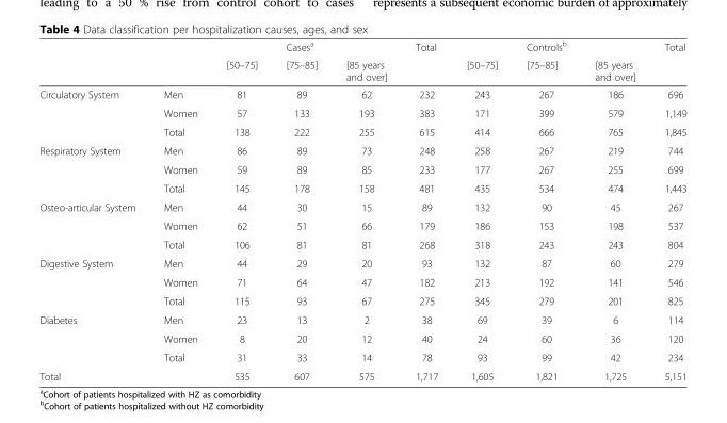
<table><thead><tr><td rowspan="2"></td><td rowspan="2"></td><td rowspan="2">[50–75]</td><td rowspan="2">Cases<sup>a</sup> [75–85]</td><td rowspan="2">[85 years and over]</td><td rowspan="2">Total</td><td rowspan="2">[50–75]</td><td rowspan="2">Controls<sup>b</sup> [75–85]</td><td rowspan="2">[85 years and over]</td><td rowspan="2">Total</td></tr><tr></tr></thead><tbody><tr><td rowspan="3">Circulatory System</td><td>Men</td><td>81</td><td>89</td><td>62</td><td>232</td><td>243</td><td>267</td><td>186</td><td>696</td></tr><tr><td>Women</td><td>57</td><td>133</td><td>193</td><td>383</td><td>171</td><td>399</td><td>579</td><td>1,149</td></tr><tr><td>Total</td><td>138</td><td>222</td><td>255</td><td>615</td><td>414</td><td>666</td><td>765</td><td>1,845</td></tr><tr><td rowspan="3">Respiratory System</td><td>Men</td><td>86</td><td>89</td><td>73</td><td>248</td><td>258</td><td>267</td><td>219</td><td>744</td></tr><tr><td>Women</td><td>59</td><td>89</td><td>85</td><td>233</td><td>177</td><td>267</td><td>255</td><td>699</td></tr><tr><td>Total</td><td>145</td><td>178</td><td>158</td><td>481</td><td>435</td><td>534</td><td>474</td><td>1,443</td></tr><tr><td rowspan="3">Osteo-articular System</td><td>Men</td><td>44</td><td>30</td><td>15</td><td>89</td><td>132</td><td>90</td><td>45</td><td>267</td></tr><tr><td>Women</td><td>62</td><td>51</td><td>66</td><td>179</td><td>186</td><td>153</td><td>198</td><td>537</td></tr><tr><td>Total</td><td>106</td><td>81</td><td>81</td><td>268</td><td>318</td><td>243</td><td>243</td><td>804</td></tr><tr><td rowspan="3">Digestive System</td><td>Men</td><td>44</td><td>29</td><td>20</td><td>93</td><td>132</td><td>87</td><td>60</td><td>279</td></tr><tr><td>Women</td><td>71</td><td>64</td><td>47</td><td>182</td><td>213</td><td>192</td><td>141</td><td>546</td></tr><tr><td>Total</td><td>115</td><td>93</td><td>67</td><td>275</td><td>345</td><td>279</td><td>201</td><td>825</td></tr><tr><td rowspan="3">Diabetes</td><td>Men</td><td>23</td><td>13</td><td>2</td><td>38</td><td>69</td><td>39</td><td>6</td><td>114</td></tr><tr><td>Women</td><td>8</td><td>20</td><td>12</td><td>40</td><td>24</td><td>60</td><td>36</td><td>120</td></tr><tr><td>Total</td><td>31</td><td>33</td><td>14</td><td>78</td><td>93</td><td>99</td><td>42</td><td>234</td></tr><tr><td>Total</td><td></td><td>535</td><td>607</td><td>575</td><td>1,717</td><td>1,605</td><td>1,821</td><td>1,725</td><td>5,151</td></tr></tbody></table>